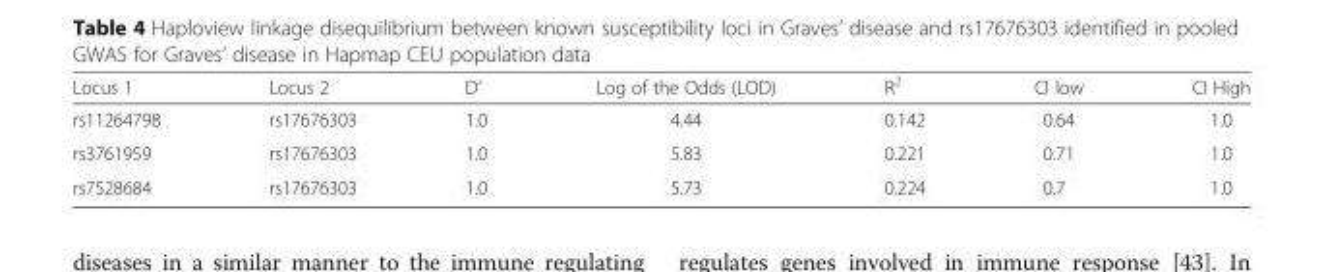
<table><thead><tr><td>Locus 1</td><td>Locus 2</td><td>D’</td><td>Log of the Odds (LOD)</td><td>R<sup>2</sup></td><td>CI low</td><td>CI High</td></tr></thead><tbody><tr><td>rs11264798</td><td>rs17676303</td><td>1.0</td><td>4.44</td><td>0.142</td><td>0.64</td><td>1.0</td></tr><tr><td>rs3761959</td><td>rs17676303</td><td>1.0</td><td>5.83</td><td>0.221</td><td>0.71</td><td>1.0</td></tr><tr><td>rs7528684</td><td>rs17676303</td><td>1.0</td><td>5.73</td><td>0.224</td><td>0.7</td><td>1.0</td></tr></tbody></table>